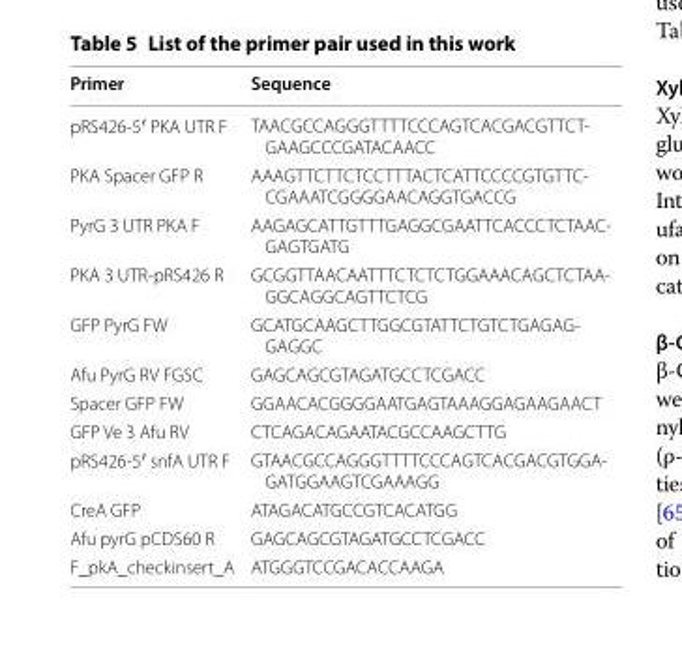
<table><thead><tr><td>Primer</td><td>Sequence</td></tr></thead><tbody><tr><td>pRS426-5′ PKA UTR F</td><td>TAACGCCAGGGTTTTCCCAGTCACGACGTTCT- GAAGCCCGATACAACC</td></tr><tr><td>PKA Spacer GFP R</td><td>AAAGTTCTTCTCCTTTACTCATTCCCCGTGTTC- CGAAATCGGGGAACAGGTGACCG</td></tr><tr><td>PyrG 3 UTR PKA F</td><td>AAGAGCATTGTTTGAGGCGAATTCACCCTCTAAC- GAGTGATG</td></tr><tr><td>PKA 3 UTR-pRS426 R</td><td>GCGGTTAACAATTTCTCTCTGGAAACAGCTCTAA- GGCAGGCAGTTCTCG</td></tr><tr><td>GFP PyrG FW</td><td>GCATGCAAGCTTGGCGTATTCTGTCTGAGAG- GAGGC</td></tr><tr><td>Afu PyrG RV FGSC</td><td>GAGCAGCGTAGATGCCTCGACC</td></tr><tr><td>Spacer GFP FW</td><td>GGAACACGGGGAATGAGTAAAGGAGAAGAACT</td></tr><tr><td>GFP Ve 3 Afu RV</td><td>CTCAGACAGAATACGCCAAGCTTG</td></tr><tr><td>pRS426-5′ snfA UTR F</td><td>GTAACGCCAGGGTTTTCCCAGTCACGACGTGGA- GATGGAAGTCGAAAGG</td></tr><tr><td>CreA GFP</td><td>ATAGACATGCCGTCACATGG</td></tr><tr><td>Afu pyrG pCDS60 R</td><td>GAGCAGCGTAGATGCCTCGACC</td></tr><tr><td>F_pkA_checkinsert_A</td><td>ATGGGTCCGACACCAAGA</td></tr></tbody></table>